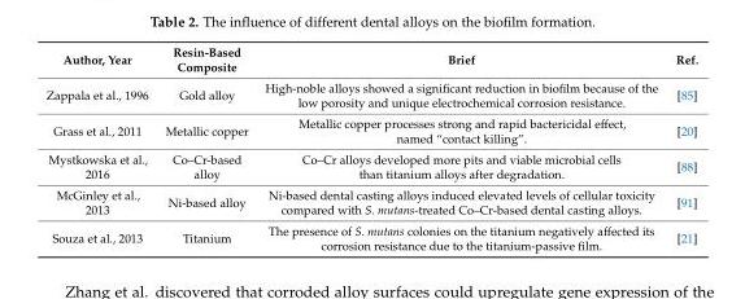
<table><thead><tr><td>Author, Year</td><td>Resin-Based Composite</td><td>Brief</td><td>Ref.</td></tr></thead><tbody><tr><td>Zappala et al., 1996</td><td>Gold alloy</td><td>High-noble alloys showed a significant reduction in biofilm because of the low porosity and unique electrochemical corrosion resistance.</td><td>[85]</td></tr><tr><td>Grass et al., 2011</td><td>Metallic copper</td><td>Metallic copper processes strong and rapid bactericidal effect, named “contact killing”.</td><td>[20]</td></tr><tr><td>Mystkowska et al., 2016</td><td>Co–Cr-based alloy</td><td>Co–Cr alloys developed more pits and viable microbial cells than titanium alloys after degradation.</td><td>[88]</td></tr><tr><td>McGinley et al., 2013</td><td>Ni-based alloy</td><td>Ni-based dental casting alloys induced elevated levels of cellular toxicity compared with S. mutans-treated Co–Cr-based dental casting alloys.</td><td>[91]</td></tr><tr><td>Souza et al., 2013</td><td>Titanium</td><td>The presence of S. mutans colonies on the titanium negatively affected its corrosion resistance due to the titanium-passive film.</td><td>[21]</td></tr></tbody></table>